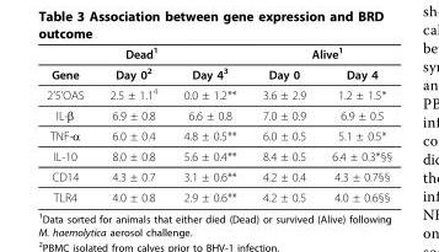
<table><thead><tr><td colspan="3">Dead<sup>1</sup></td><td colspan="2">Alive<sup>1</sup></td></tr><tr><td>Gene</td><td>Day 0<sup>2</sup></td><td>Day 4<sup>3</sup></td><td>Day 0</td><td>Day 4</td></tr></thead><tbody><tr><td>2’5’OAS</td><td>2.5 ± 1.1<sup>4</sup></td><td>0.0 ± 1.2**</td><td>3.6 ± 2.9</td><td>1.2 ± 1.5*</td></tr><tr><td>IL-β</td><td>6.9 ± 0.8</td><td>6.6 ± 0.8</td><td>7.0 ± 0.9</td><td>6.9 ± 0.5</td></tr><tr><td>TNF-α</td><td>6.0 ± 0.4</td><td>4.8 ± 0.5**</td><td>6.0 ± 0.5</td><td>5.1 ± 0.5*</td></tr><tr><td>IL-10</td><td>8.0 ± 0.8</td><td>5.6 ± 0.4**</td><td>8.4 ± 0.5</td><td>6.4 ± 0.3*§§</td></tr><tr><td>CD14</td><td>4.3 ± 0.7</td><td>3.1 ± 0.6**</td><td>4.2 ± 0.4</td><td>4.3 ± 0.7§§</td></tr><tr><td>TLR4</td><td>4.0 ± 0.8</td><td>2.9 ± 0.6**</td><td>4.2 ± 0.5</td><td>4.0 ± 0.6§§</td></tr></tbody></table>